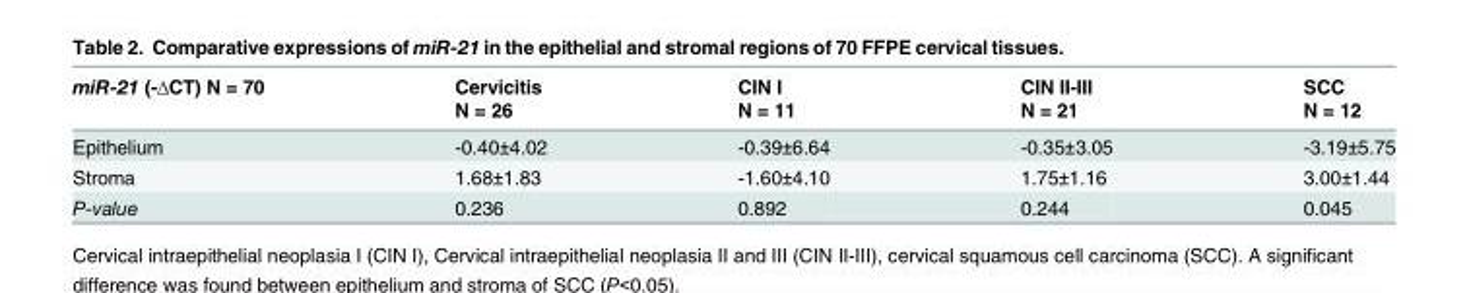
<table><thead><tr><td rowspan="2">miR-21 (-ΔCT) N = 70</td><td rowspan="2">Cervicitis N = 26</td><td rowspan="2">CIN I N = 11</td><td rowspan="2">CIN II-III N = 21</td><td rowspan="2">SCC N = 12</td></tr><tr></tr></thead><tbody><tr><td>Epithelium</td><td>-0.40±4.02</td><td>-0.39±6.64</td><td>-0.35±3.05</td><td>-3.19±5.75</td></tr><tr><td>Stroma</td><td>1.68±1.83</td><td>-1.60±4.10</td><td>1.75±1.16</td><td>3.00±1.44</td></tr><tr><td>P-value</td><td>0.236</td><td>0.892</td><td>0.244</td><td>0.045</td></tr></tbody></table>